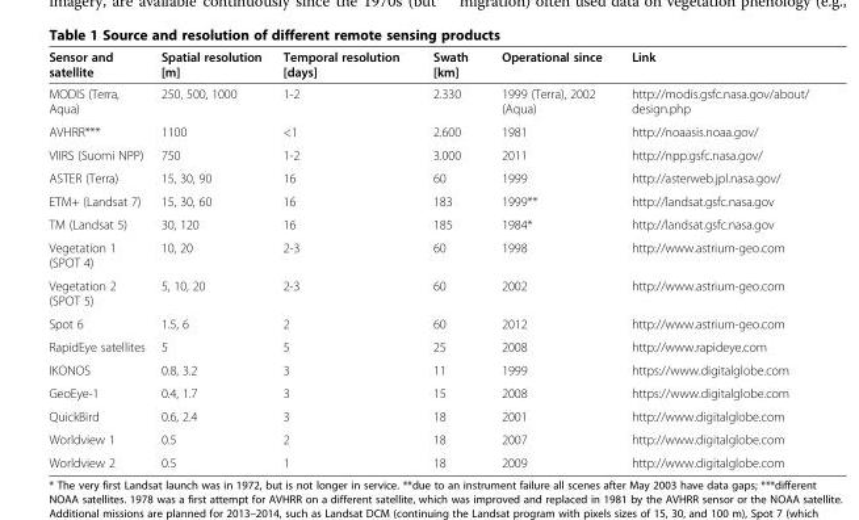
<table><thead><tr><td>Sensor and satellite</td><td>Spatial resolution [m]</td><td>Temporal resolution [days]</td><td>Swath [km]</td><td>Operational since</td><td>Link</td></tr></thead><tbody><tr><td>MODIS (Terra, Aqua)</td><td>250, 500, 1000</td><td>1-2</td><td>2.330</td><td>1999 (Terra), 2002 (Aqua)</td><td>http://modis.gsfc.nasa.gov/about/ design.php</td></tr><tr><td>AVHRR***</td><td>1100</td><td>&lt;1</td><td>2.600</td><td>1981</td><td>http://noaasis.noaa.gov/</td></tr><tr><td>VIIRS (Suomi NPP)</td><td>750</td><td>1-2</td><td>3.000</td><td>2011</td><td>http://npp.gsfc.nasa.gov/</td></tr><tr><td>ASTER (Terra)</td><td>15, 30, 90</td><td>16</td><td>60</td><td>1999</td><td>http://asterweb.jpl.nasa.gov/</td></tr><tr><td>ETM+ (Landsat 7)</td><td>15, 30, 60</td><td>16</td><td>183</td><td>1999**</td><td>http://landsat.gsfc.nasa.gov</td></tr><tr><td>TM (Landsat 5)</td><td>30, 120</td><td>16</td><td>185</td><td>1984*</td><td>http://landsat.gsfc.nasa.gov</td></tr><tr><td>Vegetation 1 (SPOT 4)</td><td>10, 20</td><td>2-3</td><td>60</td><td>1998</td><td>http://www.astrium-geo.com</td></tr><tr><td>Vegetation 2 (SPOT 5)</td><td>5, 10, 20</td><td>2-3</td><td>60</td><td>2002</td><td>http://www.astrium-geo.com</td></tr><tr><td>Spot 6</td><td>1.5, 6</td><td>2</td><td>60</td><td>2012</td><td>http://www.astrium-geo.com</td></tr><tr><td>RapidEye satellites</td><td>5</td><td>5</td><td>25</td><td>2008</td><td>http://www.rapideye.com</td></tr><tr><td>IKONOS</td><td>0.8, 3.2</td><td>3</td><td>11</td><td>1999</td><td>https://www.digitalglobe.com</td></tr><tr><td>GeoEye-1</td><td>0.4, 1.7</td><td>3</td><td>15</td><td>2008</td><td>https://www.digitalglobe.com</td></tr><tr><td>QuickBird</td><td>0.6, 2.4</td><td>3</td><td>18</td><td>2001</td><td>http://www.digitalglobe.com</td></tr><tr><td>Worldview 1</td><td>0.5</td><td>2</td><td>18</td><td>2007</td><td>http://www.digitalglobe.com</td></tr><tr><td>Worldview 2</td><td>0.5</td><td>1</td><td>18</td><td>2009</td><td>http://www.digitalglobe.com</td></tr></tbody></table>